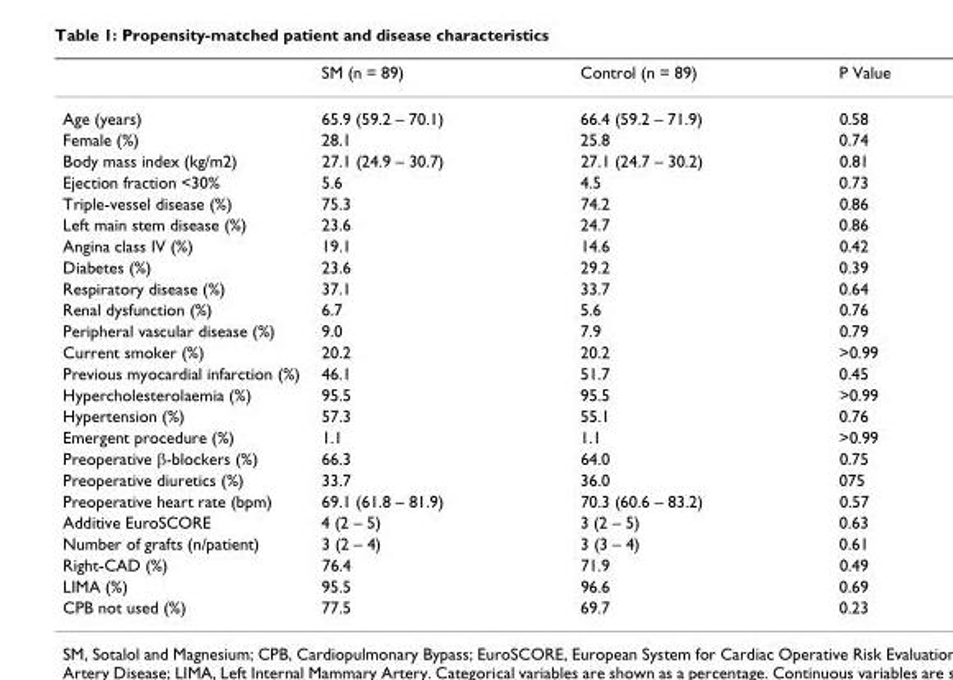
<table><thead><tr><td></td><td>SM (n = 89)</td><td>Control (n = 89)</td><td>P Value</td></tr></thead><tbody><tr><td>Age (years)</td><td>65.9 (59.2 – 70.1)</td><td>66.4 (59.2 – 71.9)</td><td>0.58</td></tr><tr><td>Female (%)</td><td>28.1</td><td>25.8</td><td>0.74</td></tr><tr><td>Body mass index (kg/m2)</td><td>27.1 (24.9 – 30.7)</td><td>27.1 (24.7 – 30.2)</td><td>0.81</td></tr><tr><td>Ejection fraction &lt;30%</td><td>5.6</td><td>4.5</td><td>0.73</td></tr><tr><td>Triple-vessel disease (%)</td><td>75.3</td><td>74.2</td><td>0.86</td></tr><tr><td>Left main stem disease (%)</td><td>23.6</td><td>24.7</td><td>0.86</td></tr><tr><td>Angina class IV (%)</td><td>19.1</td><td>14.6</td><td>0.42</td></tr><tr><td>Diabetes (%)</td><td>23.6</td><td>29.2</td><td>0.39</td></tr><tr><td>Respiratory disease (%)</td><td>37.1</td><td>33.7</td><td>0.64</td></tr><tr><td>Renal dysfunction (%)</td><td>6.7</td><td>5.6</td><td>0.76</td></tr><tr><td>Peripheral vascular disease (%)</td><td>9.0</td><td>7.9</td><td>0.79</td></tr><tr><td>Current smoker (%)</td><td>20.2</td><td>20.2</td><td>&gt;0.99</td></tr><tr><td>Previous myocardial infarction (%)</td><td>46.1</td><td>51.7</td><td>0.45</td></tr><tr><td>Hypercholesterolaemia (%)</td><td>95.5</td><td>95.5</td><td>&gt;0.99</td></tr><tr><td>Hypertension (%)</td><td>57.3</td><td>55.1</td><td>0.76</td></tr><tr><td>Emergent procedure (%)</td><td>1.1</td><td>1.1</td><td>&gt;0.99</td></tr><tr><td>Preoperative β-blockers (%)</td><td>66.3</td><td>64.0</td><td>0.75</td></tr><tr><td>Preoperative diuretics (%)</td><td>33.7</td><td>36.0</td><td>075</td></tr><tr><td>Preoperative heart rate (bpm)</td><td>69.1 (61.8 – 81.9)</td><td>70.3 (60.6 – 83.2)</td><td>0.57</td></tr><tr><td>Additive EuroSCORE</td><td>4 (2 – 5)</td><td>3 (2 – 5)</td><td>0.63</td></tr><tr><td>Number of grafts (n/patient)</td><td>3 (2 – 4)</td><td>3 (3 – 4)</td><td>0.61</td></tr><tr><td>Right-CAD (%)</td><td>76.4</td><td>71.9</td><td>0.49</td></tr><tr><td>LIMA (%)</td><td>95.5</td><td>96.6</td><td>0.69</td></tr><tr><td>CPB not used (%)</td><td>77.5</td><td>69.7</td><td>0.23</td></tr></tbody></table>